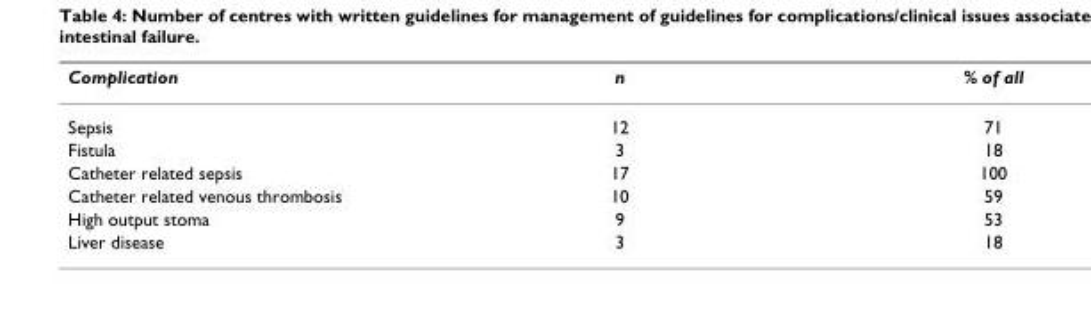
<table><thead><tr><td>Complication</td><td>n</td><td>% of all</td></tr></thead><tbody><tr><td>Sepsis</td><td>12</td><td>71</td></tr><tr><td>Fistula</td><td>3</td><td>18</td></tr><tr><td>Catheter related sepsis</td><td>17</td><td>100</td></tr><tr><td>Catheter related venous thrombosis</td><td>10</td><td>59</td></tr><tr><td>High output stoma</td><td>9</td><td>53</td></tr><tr><td>Liver disease</td><td>3</td><td>18</td></tr></tbody></table>